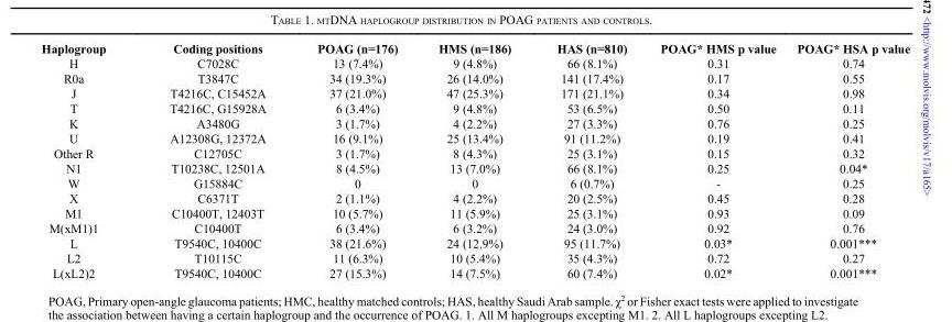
<table><thead><tr><td>Haplogroup</td><td>Coding positions</td><td>POAG (n=176)</td><td>HMS (n=186)</td><td>HAS (n=810)</td><td>POAG* HMS p value</td><td>POAG* HSA p value</td></tr></thead><tbody><tr><td>H</td><td>C7028C</td><td>13 (7.4%)</td><td>9 (4.8%)</td><td>66 (8.1%)</td><td>0.31</td><td>0.74</td></tr><tr><td>R0a</td><td>T3847C</td><td>34 (19.3%)</td><td>26 (14.0%)</td><td>141 (17.4%)</td><td>0.17</td><td>0.55</td></tr><tr><td>J</td><td>T4216C, C15452A</td><td>37 (21.0%)</td><td>47 (25.3%)</td><td>171 (21.1%)</td><td>0.34</td><td>0.98</td></tr><tr><td>T</td><td>T4216C, G15928A</td><td>6 (3.4%)</td><td>9 (4.8%)</td><td>53 (6.5%)</td><td>0.50</td><td>0.11</td></tr><tr><td>K</td><td>A3480G</td><td>3 (1.7%)</td><td>4 (2.2%)</td><td>27 (3.3%)</td><td>0.76</td><td>0.25</td></tr><tr><td>U</td><td>A12308G, 12372A</td><td>16 (9.1%)</td><td>25 (13.4%)</td><td>91 (11.2%)</td><td>0.19</td><td>0.41</td></tr><tr><td>Other R</td><td>C12705C</td><td>3 (1.7%)</td><td>8 (4.3%)</td><td>25 (3.1%)</td><td>0.15</td><td>0.32</td></tr><tr><td>N1</td><td>T10238C, 12501A</td><td>8 (4.5%)</td><td>13 (7.0%)</td><td>66 (8.1%)</td><td>0.25</td><td>0.04*</td></tr><tr><td>W</td><td>G15884C</td><td>0</td><td>0</td><td>6 (0.7%)</td><td>-</td><td>0.25</td></tr><tr><td>X</td><td>C6371T</td><td>2 (1.1%)</td><td>4 (2.2%)</td><td>20 (2.5%)</td><td>0.45</td><td>0.28</td></tr><tr><td>M1</td><td>C10400T, 12403T</td><td>10 (5.7%)</td><td>11 (5.9%)</td><td>25 (3.1%)</td><td>0.93</td><td>0.09</td></tr><tr><td>M(xM1)1</td><td>C10400T</td><td>6 (3.4%)</td><td>6 (3.2%)</td><td>24 (3.0%)</td><td>0.92</td><td>0.76</td></tr><tr><td>L</td><td>T9540C, 10400C</td><td>38 (21.6%)</td><td>24 (12.9%)</td><td>95 (11.7%)</td><td>0.03*</td><td>0.001***</td></tr><tr><td>L2</td><td>T10115C</td><td>11 (6.3%)</td><td>10 (5.4%)</td><td>35 (4.3%)</td><td>0.72</td><td>0.27</td></tr><tr><td>L(xL2)2</td><td>T9540C, 10400C</td><td>27 (15.3%)</td><td>14 (7.5%)</td><td>60 (7.4%)</td><td>0.02*</td><td>0.001***</td></tr></tbody></table>